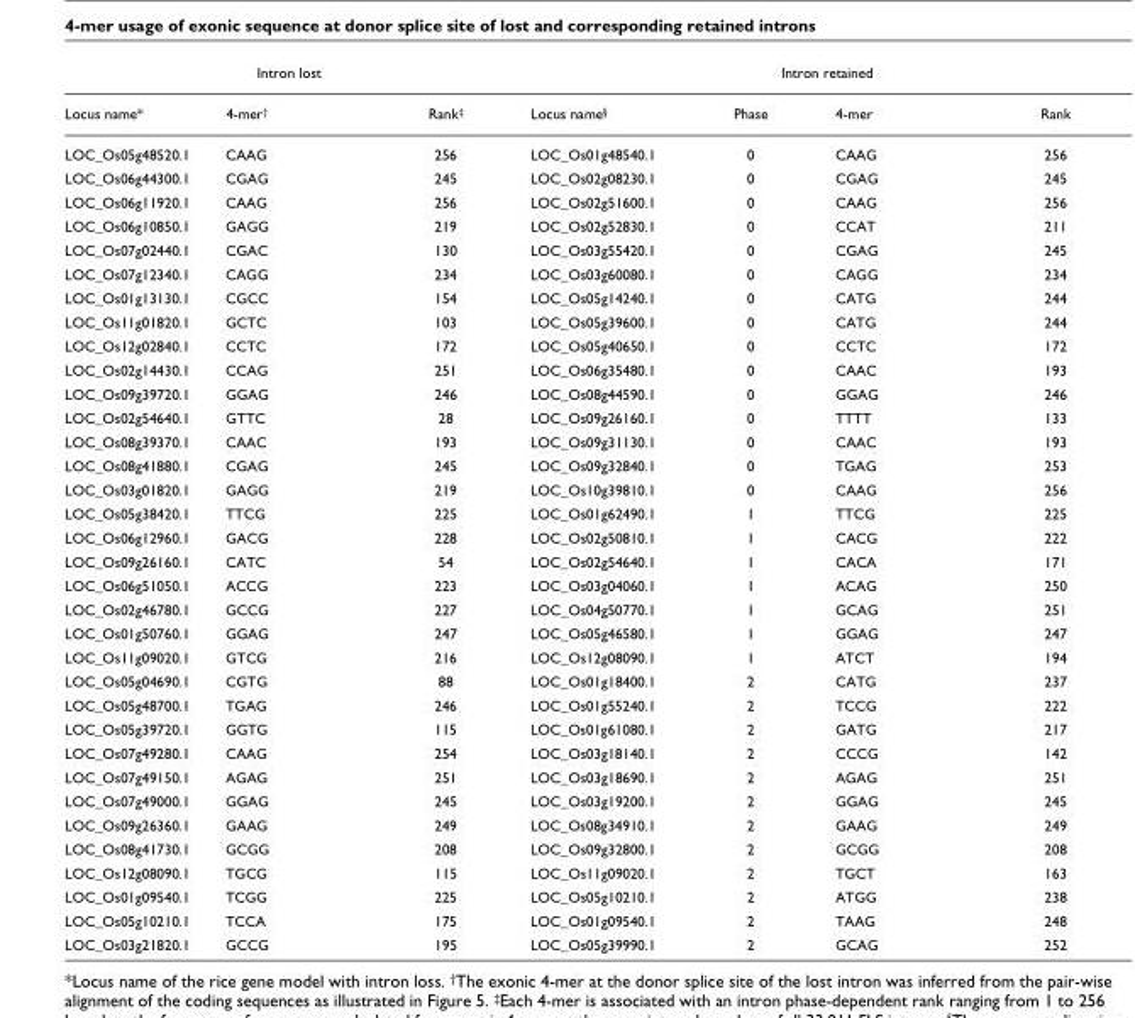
<table><thead><tr><td colspan="3">Intron lost</td><td colspan="4">Intron retained</td></tr><tr><td>Locus name*</td><td>4-mer†</td><td>Rank‡</td><td>Locus name§</td><td>Phase</td><td>4-mer</td><td>Rank</td></tr></thead><tbody><tr><td>LOC_Os05g48520.1</td><td>CAAG</td><td>256</td><td>LOC_Os01g48540.1</td><td>0</td><td>CAAG</td><td>256</td></tr><tr><td>LOC_Os06g44300.1</td><td>CGAG</td><td>245</td><td>LOC_Os02g08230.1</td><td>0</td><td>CGAG</td><td>245</td></tr><tr><td>LOC_Os06g11920.1</td><td>CAAG</td><td>256</td><td>LOC_Os02g51600.1</td><td>0</td><td>CAAG</td><td>256</td></tr><tr><td>LOC_Os06g10850.1</td><td>GAGG</td><td>219</td><td>LOC_Os02g52830.1</td><td>0</td><td>CCAT</td><td>211</td></tr><tr><td>LOC_Os07g02440.1</td><td>CGAC</td><td>130</td><td>LOC_Os03g55420.1</td><td>0</td><td>CGAG</td><td>245</td></tr><tr><td>LOC_Os07g12340.1</td><td>CAGG</td><td>234</td><td>LOC_Os03g60080.1</td><td>0</td><td>CAGG</td><td>234</td></tr><tr><td>LOC_Os01g13130.1</td><td>CGCC</td><td>154</td><td>LOC_Os05g14240.1</td><td>0</td><td>CATG</td><td>244</td></tr><tr><td>LOC_Os11g01820.1</td><td>GCTC</td><td>103</td><td>LOC_Os05g39600.1</td><td>0</td><td>CATG</td><td>244</td></tr><tr><td>LOC_Os12g02840.1</td><td>CCTC</td><td>172</td><td>LOC_Os05g40650.1</td><td>0</td><td>CCTC</td><td>172</td></tr><tr><td>LOC_Os02g14430.1</td><td>CCAG</td><td>251</td><td>LOC_Os06g35480.1</td><td>0</td><td>CAAC</td><td>193</td></tr><tr><td>LOC_Os09g39720.1</td><td>GGAG</td><td>246</td><td>LOC_Os08g44590.1</td><td>0</td><td>GGAG</td><td>246</td></tr><tr><td>LOC_Os02g54640.1</td><td>GTTC</td><td>28</td><td>LOC_Os09g26160.1</td><td>0</td><td>TTTT</td><td>133</td></tr><tr><td>LOC_Os08g39370.1</td><td>CAAC</td><td>193</td><td>LOC_Os09g31130.1</td><td>0</td><td>CAAC</td><td>193</td></tr><tr><td>LOC_Os08g41880.1</td><td>CGAG</td><td>245</td><td>LOC_Os09g32840.1</td><td>0</td><td>TGAG</td><td>253</td></tr><tr><td>LOC_Os03g01820.1</td><td>GAGG</td><td>219</td><td>LOC_Os10g39810.1</td><td>0</td><td>CAAG</td><td>256</td></tr><tr><td>LOC_Os05g38420.1</td><td>TTCG</td><td>225</td><td>LOC_Os01g62490.1</td><td>1</td><td>TTCG</td><td>225</td></tr><tr><td>LOC_Os06g12960.1</td><td>GACG</td><td>228</td><td>LOC_Os02g50810.1</td><td>1</td><td>CACG</td><td>222</td></tr><tr><td>LOC_Os09g26160.1</td><td>CATC</td><td>54</td><td>LOC_Os02g54640.1</td><td>1</td><td>CACA</td><td>171</td></tr><tr><td>LOC_Os06g51050.1</td><td>ACCG</td><td>223</td><td>LOC_Os03g04060.1</td><td>1</td><td>ACAG</td><td>250</td></tr><tr><td>LOC_Os02g46780.1</td><td>GCCG</td><td>227</td><td>LOC_Os04g50770.1</td><td>1</td><td>GCAG</td><td>251</td></tr><tr><td>LOC_Os01g50760.1</td><td>GGAG</td><td>247</td><td>LOC_Os05g46580.1</td><td>1</td><td>GGAG</td><td>247</td></tr><tr><td>LOC_Os11g09020.1</td><td>GTCG</td><td>216</td><td>LOC_Os12g08090.1</td><td>1</td><td>ATCT</td><td>194</td></tr><tr><td>LOC_Os05g04690.1</td><td>CGTG</td><td>88</td><td>LOC_Os01g18400.1</td><td>2</td><td>CATG</td><td>237</td></tr><tr><td>LOC_Os05g48700.1</td><td>TGAG</td><td>246</td><td>LOC_Os01g55240.1</td><td>2</td><td>TCCG</td><td>222</td></tr><tr><td>LOC_Os05g39720.1</td><td>GGTG</td><td>115</td><td>LOC_Os01g61080.1</td><td>2</td><td>GATG</td><td>217</td></tr><tr><td>LOC_Os07g49280.1</td><td>CAAG</td><td>254</td><td>LOC_Os03g18140.1</td><td>2</td><td>CCCG</td><td>142</td></tr><tr><td>LOC_Os07g49150.1</td><td>AGAG</td><td>251</td><td>LOC_Os03g18690.1</td><td>2</td><td>AGAG</td><td>251</td></tr><tr><td>LOC_Os07g49000.1</td><td>GGAG</td><td>245</td><td>LOC_Os03g19200.1</td><td>2</td><td>GGAG</td><td>245</td></tr><tr><td>LOC_Os09g26360.1</td><td>GAAG</td><td>249</td><td>LOC_Os08g34910.1</td><td>2</td><td>GAAG</td><td>249</td></tr><tr><td>LOC_Os08g41730.1</td><td>GCGG</td><td>208</td><td>LOC_Os09g32800.1</td><td>2</td><td>GCGG</td><td>208</td></tr><tr><td>LOC_Os12g08090.1</td><td>TGCG</td><td>115</td><td>LOC_Os11g09020.1</td><td>2</td><td>TGCT</td><td>163</td></tr><tr><td>LOC_Os01g09540.1</td><td>TCGG</td><td>225</td><td>LOC_Os05g10210.1</td><td>2</td><td>ATGG</td><td>238</td></tr><tr><td>LOC_Os05g10210.1</td><td>TCCA</td><td>175</td><td>LOC_Os01g09540.1</td><td>2</td><td>TAAG</td><td>248</td></tr><tr><td>LOC_Os03g21820.1</td><td>GCCG</td><td>195</td><td>LOC_Os05g39990.1</td><td>2</td><td>GCAG</td><td>252</td></tr></tbody></table>